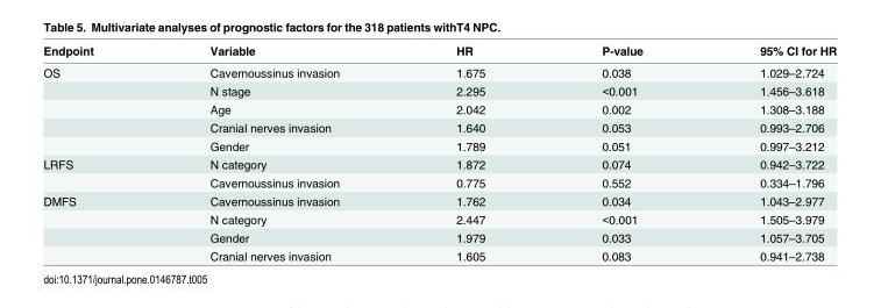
<table><thead><tr><td>Endpoint</td><td>Variable</td><td>HR</td><td>P-value</td><td>95% CI for HR</td></tr></thead><tbody><tr><td rowspan="5">OS</td><td>Cavernoussinus invasion</td><td>1.675</td><td>0.038</td><td>1.029–2.724</td></tr><tr><td>N stage</td><td>2.295</td><td>&lt;0.001</td><td>1.456–3.618</td></tr><tr><td>Age</td><td>2.042</td><td>0.002</td><td>1.308–3.188</td></tr><tr><td>Cranial nerves invasion</td><td>1.640</td><td>0.053</td><td>0.993–2.706</td></tr><tr><td>Gender</td><td>1.789</td><td>0.051</td><td>0.997–3.212</td></tr><tr><td rowspan="2">LRFS</td><td>N category</td><td>1.872</td><td>0.074</td><td>0.942–3.722</td></tr><tr><td>Cavernoussinus invasion</td><td>0.775</td><td>0.552</td><td>0.334–1.796</td></tr><tr><td rowspan="4">DMFS</td><td>Cavernoussinus invasion</td><td>1.762</td><td>0.034</td><td>1.043–2.977</td></tr><tr><td>N category</td><td>2.447</td><td>&lt;0.001</td><td>1.505–3.979</td></tr><tr><td>Gender</td><td>1.979</td><td>0.033</td><td>1.057–3.705</td></tr><tr><td>Cranial nerves invasion</td><td>1.605</td><td>0.083</td><td>0.941–2.738</td></tr></tbody></table>